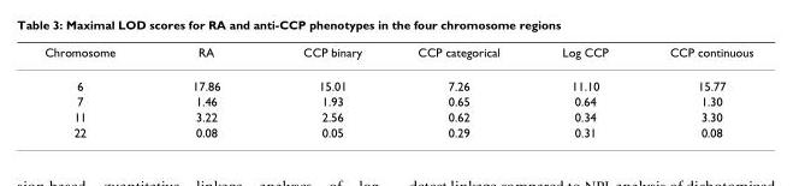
<table><thead><tr><td>Chromosome</td><td>RA</td><td>CCP binary</td><td>CCP categorical</td><td>Log CCP</td><td>CCP continuous</td></tr></thead><tbody><tr><td>6</td><td>17.86</td><td>15.01</td><td>7.26</td><td>11.10</td><td>15.77</td></tr><tr><td>7</td><td>1.46</td><td>1.93</td><td>0.65</td><td>0.64</td><td>1.30</td></tr><tr><td>11</td><td>3.22</td><td>2.56</td><td>0.62</td><td>0.34</td><td>3.30</td></tr><tr><td>22</td><td>0.08</td><td>0.05</td><td>0.29</td><td>0.31</td><td>0.08</td></tr></tbody></table>